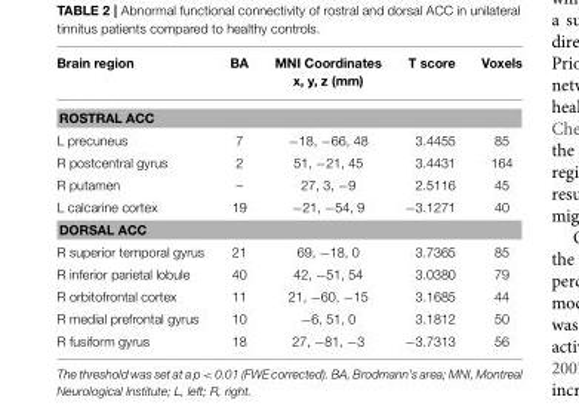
<table><thead><tr><td>Brain region</td><td>BA</td><td>MNI Coordinates x, y, z (mm)</td><td>T score</td><td>Voxels</td></tr></thead><tbody><tr><td colspan="5">ROSTRAL ACC</td></tr><tr><td>L precuneus</td><td>7</td><td>−18, −66, 48</td><td>3.4455</td><td>85</td></tr><tr><td>R postcentral gyrus</td><td>2</td><td>51, −21, 45</td><td>3.4431</td><td>164</td></tr><tr><td>R putamen</td><td>–</td><td>27, 3, −9</td><td>2.5116</td><td>45</td></tr><tr><td>L calcarine cortex</td><td>19</td><td>−21, −54, 9</td><td>−3.1271</td><td>40</td></tr><tr><td colspan="5">DORSAL ACC</td></tr><tr><td>R superior temporal gyrus</td><td>21</td><td>69, −18, 0</td><td>3.7365</td><td>85</td></tr><tr><td>R inferior parietal lobule</td><td>40</td><td>42, −51, 54</td><td>3.0380</td><td>79</td></tr><tr><td>R orbitofrontal cortex</td><td>11</td><td>21, −60, −15</td><td>3.1685</td><td>44</td></tr><tr><td>R medial prefrontal gyrus</td><td>10</td><td>−6, 51, 0</td><td>3.1812</td><td>50</td></tr><tr><td>R fusiform gyrus</td><td>18</td><td>27, −81, −3</td><td>−3.7313</td><td>56</td></tr></tbody></table>